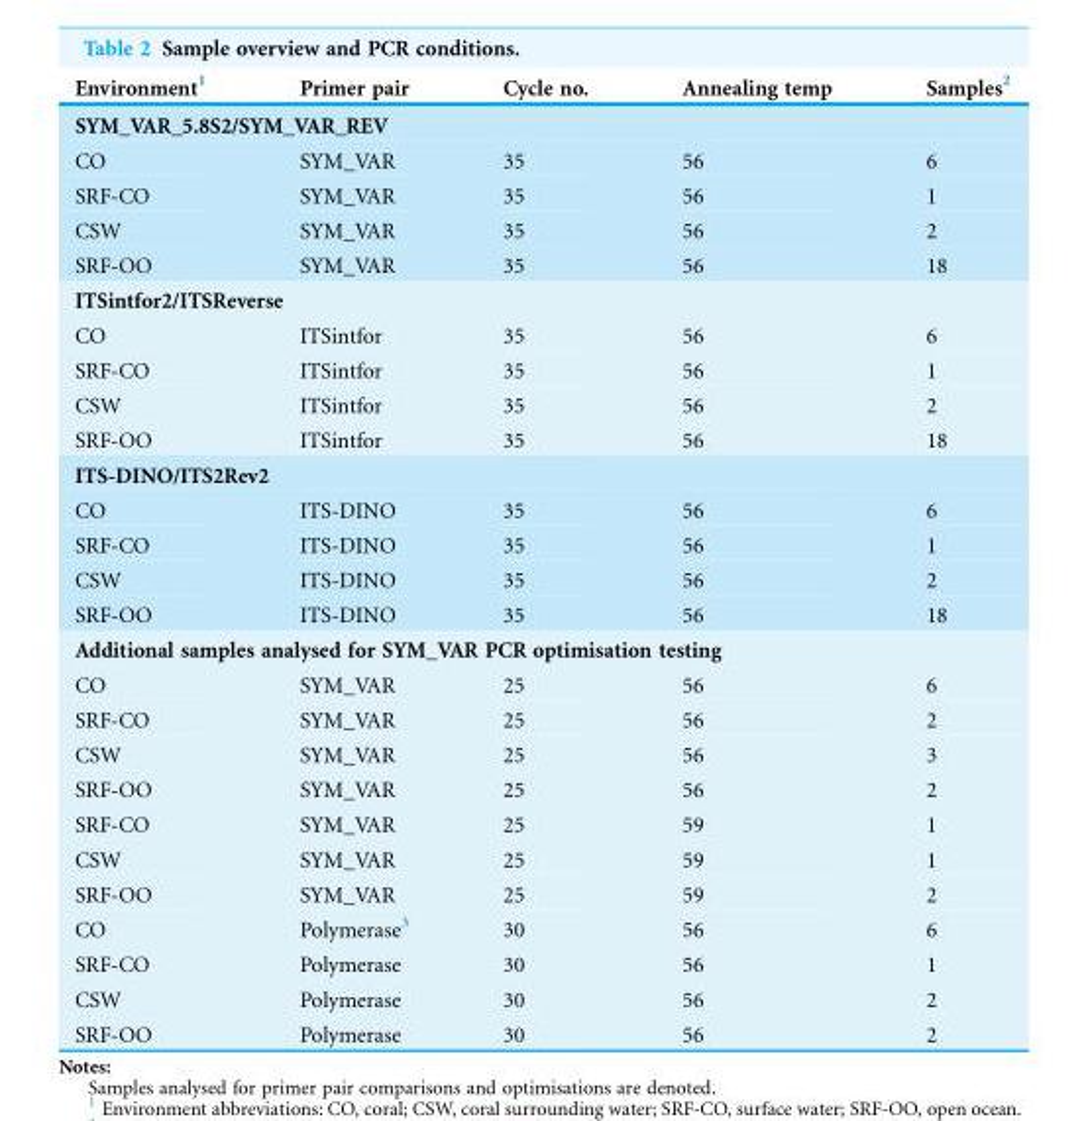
<table><thead><tr><td>Environment<sup>1</sup></td><td>Primer pair</td><td>Cycle no.</td><td>Annealing temp</td><td>Samples<sup>2</sup></td></tr></thead><tbody><tr><td colspan="5">SYM_VAR_5.8S2/SYM_VAR_REV</td></tr><tr><td>CO</td><td>SYM_VAR</td><td>35</td><td>56</td><td>6</td></tr><tr><td>SRF-CO</td><td>SYM_VAR</td><td>35</td><td>56</td><td>1</td></tr><tr><td>CSW</td><td>SYM_VAR</td><td>35</td><td>56</td><td>2</td></tr><tr><td>SRF-OO</td><td>SYM_VAR</td><td>35</td><td>56</td><td>18</td></tr><tr><td colspan="5">ITSintfor2/ITSReverse</td></tr><tr><td>CO</td><td>ITSintfor</td><td>35</td><td>56</td><td>6</td></tr><tr><td>SRF-CO</td><td>ITSintfor</td><td>35</td><td>56</td><td>1</td></tr><tr><td>CSW</td><td>ITSintfor</td><td>35</td><td>56</td><td>2</td></tr><tr><td>SRF-OO</td><td>ITSintfor</td><td>35</td><td>56</td><td>18</td></tr><tr><td colspan="5">ITS-DINO/ITS2Rev2</td></tr><tr><td>CO</td><td>ITS-DINO</td><td>35</td><td>56</td><td>6</td></tr><tr><td>SRF-CO</td><td>ITS-DINO</td><td>35</td><td>56</td><td>1</td></tr><tr><td>CSW</td><td>ITS-DINO</td><td>35</td><td>56</td><td>2</td></tr><tr><td>SRF-OO</td><td>ITS-DINO</td><td>35</td><td>56</td><td>18</td></tr><tr><td colspan="5">Additional samples analysed for SYM_VAR PCR optimisation testing</td></tr><tr><td>CO</td><td>SYM_VAR</td><td>25</td><td>56</td><td>6</td></tr><tr><td>SRF-CO</td><td>SYM_VAR</td><td>25</td><td>56</td><td>2</td></tr><tr><td>CSW</td><td>SYM_VAR</td><td>25</td><td>56</td><td>3</td></tr><tr><td>SRF-OO</td><td>SYM_VAR</td><td>25</td><td>56</td><td>2</td></tr><tr><td>SRF-CO</td><td>SYM_VAR</td><td>25</td><td>59</td><td>1</td></tr><tr><td>CSW</td><td>SYM_VAR</td><td>25</td><td>59</td><td>1</td></tr><tr><td>SRF-OO</td><td>SYM_VAR</td><td>25</td><td>59</td><td>2</td></tr><tr><td>CO</td><td>Polymerase<sup>3</sup></td><td>30</td><td>56</td><td>6</td></tr><tr><td>SRF-CO</td><td>Polymerase</td><td>30</td><td>56</td><td>1</td></tr><tr><td>CSW</td><td>Polymerase</td><td>30</td><td>56</td><td>2</td></tr><tr><td>SRF-OO</td><td>Polymerase</td><td>30</td><td>56</td><td>2</td></tr></tbody></table>